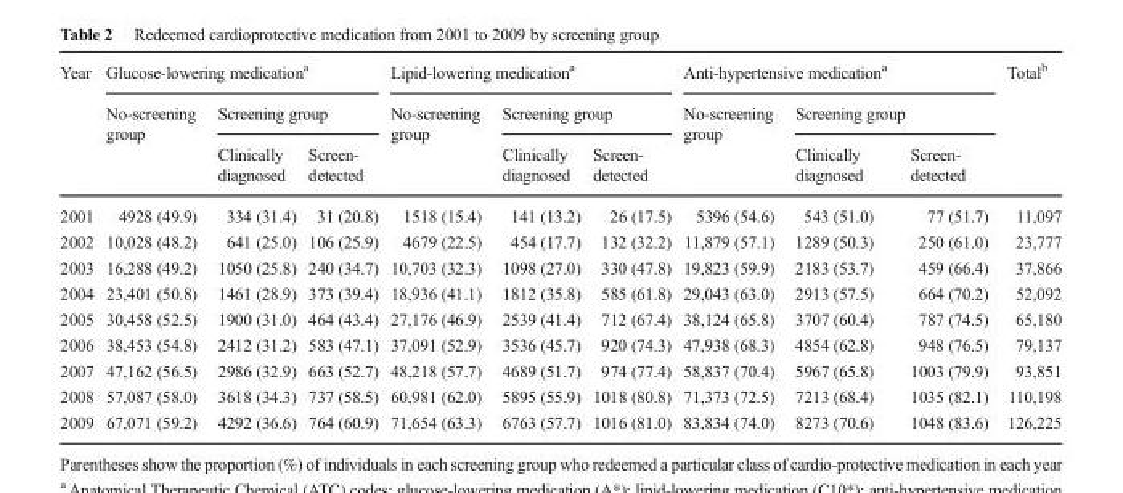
<table><thead><tr><td rowspan="3">Year</td><td colspan="3">Glucose-lowering medication<sup>a</sup></td><td colspan="3">Lipid-lowering medication<sup>a</sup></td><td colspan="3">Anti-hypertensive medication<sup>a</sup></td><td rowspan="3">Total<sup>b</sup></td></tr><tr><td rowspan="2">No-screening group</td><td colspan="2">Screening group</td><td rowspan="2">No-screening group</td><td colspan="2">Screening group</td><td rowspan="2">No-screening group</td><td colspan="2">Screening group</td></tr><tr><td>Clinically diagnosed</td><td>Screen- detected</td><td>Clinically diagnosed</td><td>Screen- detected</td><td>Clinically diagnosed</td><td>Screen- detected</td></tr></thead><tbody><tr><td>2001</td><td>4928 (49.9)</td><td>334 (31.4)</td><td>31 (20.8)</td><td>1518 (15.4)</td><td>141 (13.2)</td><td>26 (17.5)</td><td>5396 (54.6)</td><td>543 (51.0)</td><td>77 (51.7)</td><td>11,097</td></tr><tr><td>2002</td><td>10,028 (48.2)</td><td>641 (25.0)</td><td>106 (25.9)</td><td>4679 (22.5)</td><td>454 (17.7)</td><td>132 (32.2)</td><td>11,879 (57.1)</td><td>1289 (50.3)</td><td>250 (61.0)</td><td>23,777</td></tr><tr><td>2003</td><td>16,288 (49.2)</td><td>1050 (25.8)</td><td>240 (34.7)</td><td>10,703 (32.3)</td><td>1098 (27.0)</td><td>330 (47.8)</td><td>19,823 (59.9)</td><td>2183 (53.7)</td><td>459 (66.4)</td><td>37,866</td></tr><tr><td>2004</td><td>23,401 (50.8)</td><td>1461 (28.9)</td><td>373 (39.4)</td><td>18,936 (41.1)</td><td>1812 (35.8)</td><td>585 (61.8)</td><td>29,043 (63.0)</td><td>2913 (57.5)</td><td>664 (70.2)</td><td>52,092</td></tr><tr><td>2005</td><td>30,458 (52.5)</td><td>1900 (31.0)</td><td>464 (43.4)</td><td>27,176 (46.9)</td><td>2539 (41.4)</td><td>712 (67.4)</td><td>38,124 (65.8)</td><td>3707 (60.4)</td><td>787 (74.5)</td><td>65,180</td></tr><tr><td>2006</td><td>38,453 (54.8)</td><td>2412 (31.2)</td><td>583 (47.1)</td><td>37,091 (52.9)</td><td>3536 (45.7)</td><td>920 (74.3)</td><td>47,938 (68.3)</td><td>4854 (62.8)</td><td>948 (76.5)</td><td>79,137</td></tr><tr><td>2007</td><td>47,162 (56.5)</td><td>2986 (32.9)</td><td>663 (52.7)</td><td>48,218 (57.7)</td><td>4689 (51.7)</td><td>974 (77.4)</td><td>58,837 (70.4)</td><td>5967 (65.8)</td><td>1003 (79.9)</td><td>93,851</td></tr><tr><td>2008</td><td>57,087 (58.0)</td><td>3618 (34.3)</td><td>737 (58.5)</td><td>60,981 (62.0)</td><td>5895 (55.9)</td><td>1018 (80.8)</td><td>71,373 (72.5)</td><td>7213 (68.4)</td><td>1035 (82.1)</td><td>110,198</td></tr><tr><td>2009</td><td>67,071 (59.2)</td><td>4292 (36.6)</td><td>764 (60.9)</td><td>71,654 (63.3)</td><td>6763 (57.7)</td><td>1016 (81.0)</td><td>83,834 (74.0)</td><td>8273 (70.6)</td><td>1048 (83.6)</td><td>126,225</td></tr></tbody></table>